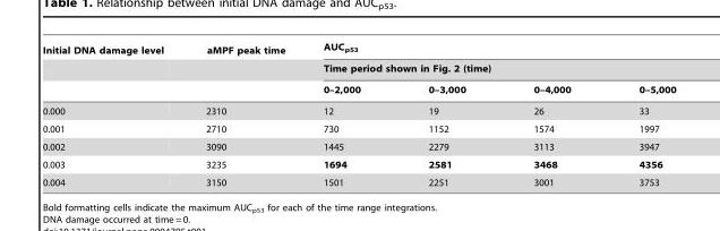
<table><thead><tr><td rowspan="3">Initial DNA damage level</td><td rowspan="3">aMPF peak time</td><td rowspan="2" colspan="4">AUC<sub>p53</sub> Time period shown in Fig. 2 (time)</td></tr><tr></tr><tr><td>0–2,000</td><td>0–3,000</td><td>0–4,000</td><td>0–5,000</td></tr></thead><tbody><tr><td>0.000</td><td>2310</td><td>12</td><td>19</td><td>26</td><td>33</td></tr><tr><td>0.001</td><td>2710</td><td>730</td><td>1152</td><td>1574</td><td>1997</td></tr><tr><td>0.002</td><td>3090</td><td>1445</td><td>2279</td><td>3113</td><td>3947</td></tr><tr><td>0.003</td><td>3235</td><td>1694</td><td>2581</td><td>3468</td><td>4356</td></tr><tr><td>0.004</td><td>3150</td><td>1501</td><td>2251</td><td>3001</td><td>3753</td></tr></tbody></table>